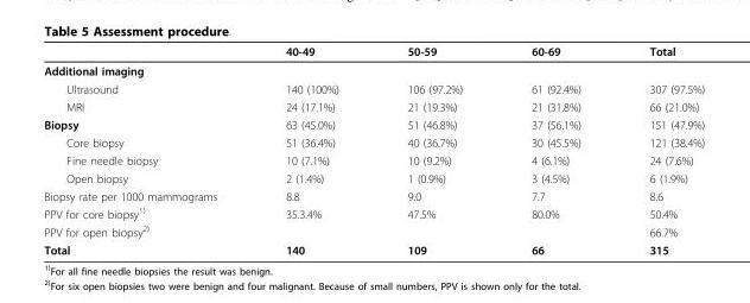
<table><thead><tr><td></td><td>40-49</td><td>50-59</td><td>60-69</td><td>Total</td></tr></thead><tbody><tr><td colspan="5">Additional imaging</td></tr><tr><td>Ultrasound</td><td>140 (100%)</td><td>106 (97.2%)</td><td>61 (92.4%)</td><td>307 (97.5%)</td></tr><tr><td>MRI</td><td>24 (17.1%)</td><td>21 (19.3%)</td><td>21 (31.8%)</td><td>66 (21.0%)</td></tr><tr><td>Biopsy</td><td>63 (45.0%)</td><td>51 (46.8%)</td><td>37 (56.1%)</td><td>151 (47.9%)</td></tr><tr><td>Core biopsy</td><td>51 (36.4%)</td><td>40 (36.7%)</td><td>30 (45.5%)</td><td>121 (38.4%)</td></tr><tr><td>Fine needle biopsy</td><td>10 (7.1%)</td><td>10 (9.2%)</td><td>4 (6.1%)</td><td>24 (7.6%)</td></tr><tr><td>Open biopsy</td><td>2 (1.4%)</td><td>1 (0.9%)</td><td>3 (4.5%)</td><td>6 (1.9%)</td></tr><tr><td>Biopsy rate per 1000 mammograms</td><td>8.8</td><td>9.0</td><td>7.7</td><td>8.6</td></tr><tr><td>PPV for core biopsy<sup>1)</sup></td><td>35.3.4%</td><td>47.5%</td><td>80.0%</td><td>50.4%</td></tr><tr><td>PPV for open biopsy<sup>2)</sup></td><td></td><td></td><td></td><td>66.7%</td></tr><tr><td>Total</td><td>140</td><td>109</td><td>66</td><td>315</td></tr></tbody></table>